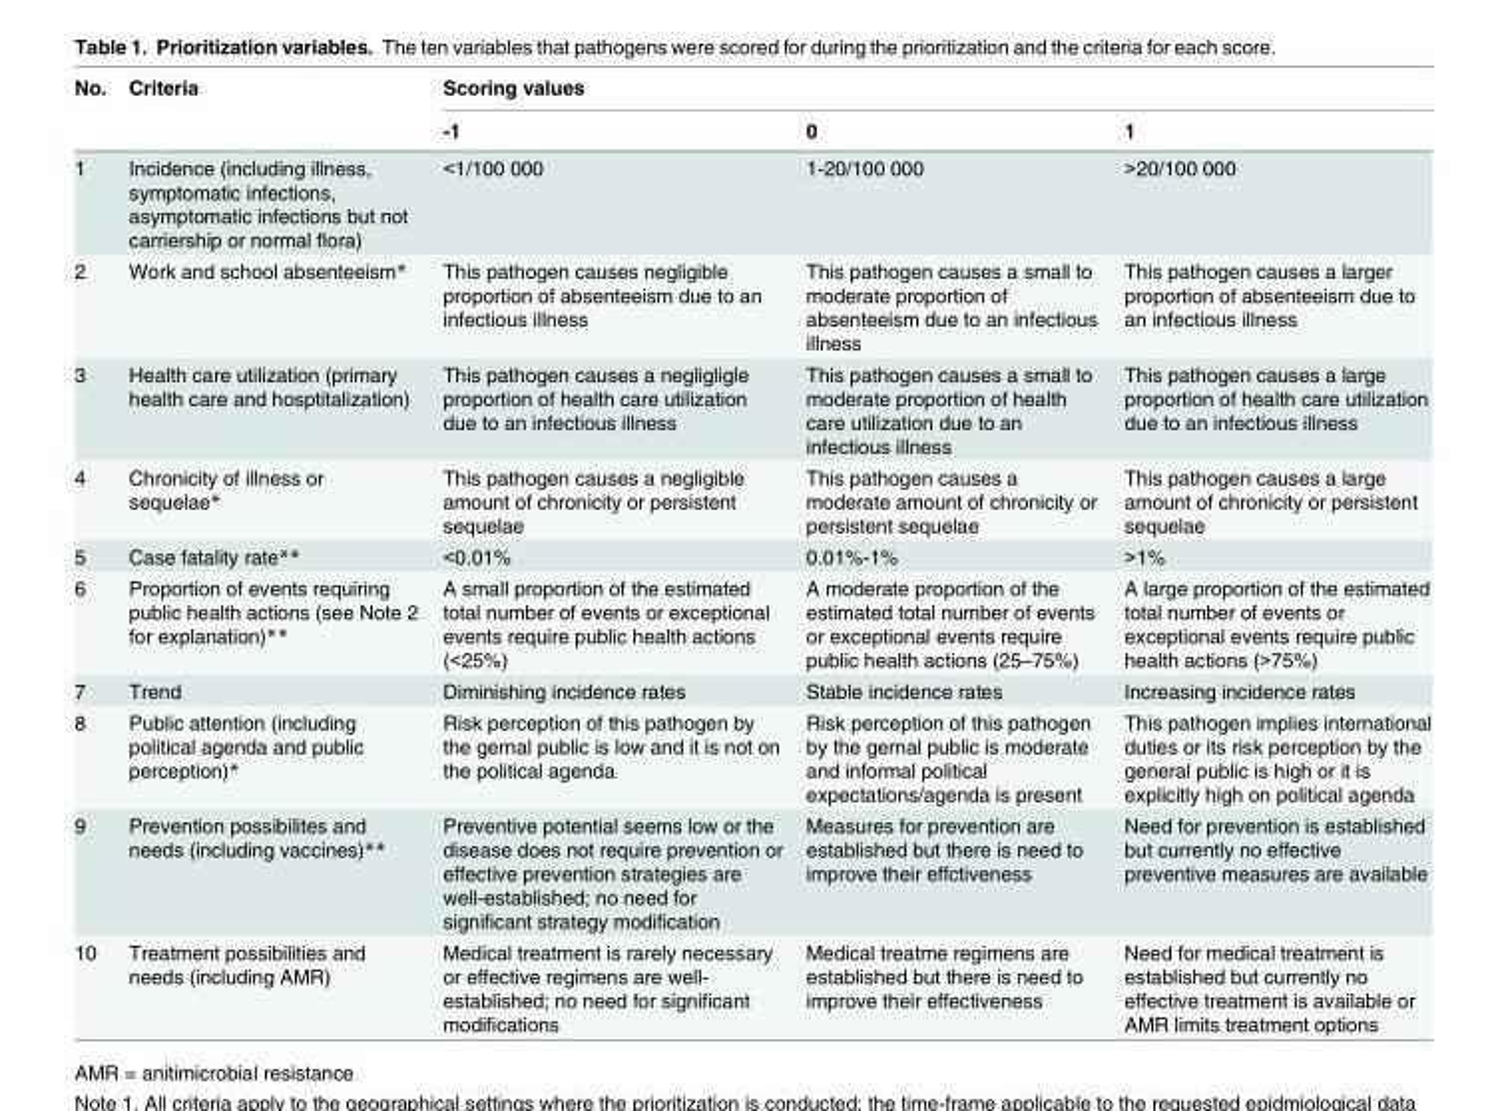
<table><thead><tr><td rowspan="2">No.</td><td rowspan="2">Criteria</td><td colspan="3">Scoring values</td></tr><tr><td>-1</td><td>0</td><td>1</td></tr></thead><tbody><tr><td>1</td><td>Incidence (including illness, symptomatic infections, asymptomatic infections but not carriership or normal flora)</td><td>&lt;1/100 000</td><td>1-20/100 000</td><td>&gt;20/100 000</td></tr><tr><td>2</td><td>Work and school absenteeism*</td><td>This pathogen causes negligible proportion of absenteeism due to an infectious illness</td><td>This pathogen causes a small to moderate proportion of absenteeism due to an infectious illness</td><td>This pathogen causes a larger proportion of absenteeism due to an infectious illness</td></tr><tr><td>3</td><td>Health care utilization (primary health care and hosptitalization)</td><td>This pathogen causes a negligligle proportion of health care utilization due to an infectious illness</td><td>This pathogen causes a small to moderate proportion of health care utilization due to an infectious illness</td><td>This pathogen causes a large proportion of health care utilization due to an infectious illness</td></tr><tr><td>4</td><td>Chronicity of illness or sequelae*</td><td>This pathogen causes a negligible amount of chronicity or persistent sequelae</td><td>This pathogen causes a moderate amount of chronicity or persistent sequelae</td><td>This pathogen causes a large amount of chronicity or persistent sequelae</td></tr><tr><td>5</td><td>Case fatality rate**</td><td>&lt;0.01%</td><td>0.01%-1%</td><td>&gt;1%</td></tr><tr><td>6</td><td>Proportion of events requiring public health actions (see Note 2 for explanation)**</td><td>A small proportion of the estimated total number of events or exceptional events require public health actions (&lt;25%)</td><td>A moderate proportion of the estimated total number of events or exceptional events require public health actions (25–75%)</td><td>A large proportion of the estimated total number of events or exceptional events require public health actions (&gt;75%)</td></tr><tr><td>7</td><td>Trend</td><td>Diminishing incidence rates</td><td>Stable incidence rates</td><td>Increasing incidence rates</td></tr><tr><td>8</td><td>Public attention (including political agenda and public perception)*</td><td>Risk perception of this pathogen by the gernal public is low and it is not on the political agenda</td><td>Risk perception of this pathogen by the gernal public is moderate and informal political expectations/agenda is present</td><td>This pathogen implies international duties or its risk perception by the general public is high or it is explicitly high on political agenda</td></tr><tr><td>9</td><td>Prevention possibilites and needs (including vaccines)**</td><td>Preventive potential seems low or the disease does not require prevention or effective prevention strategies are well-established; no need for significant strategy modification</td><td>Measures for prevention are established but there is need to improve their effctiveness</td><td>Need for prevention is established but currently no effective preventive measures are available</td></tr><tr><td>10</td><td>Treatment possibilities and needs (including AMR)</td><td>Medical treatment is rarely necessary or effective regimens are well- established; no need for significant modifications</td><td>Medical treatme regimens are established but there is need to improve their effectiveness</td><td>Need for medical treatment is established but currently no effective treatment is available or AMR limits treatment options</td></tr></tbody></table>